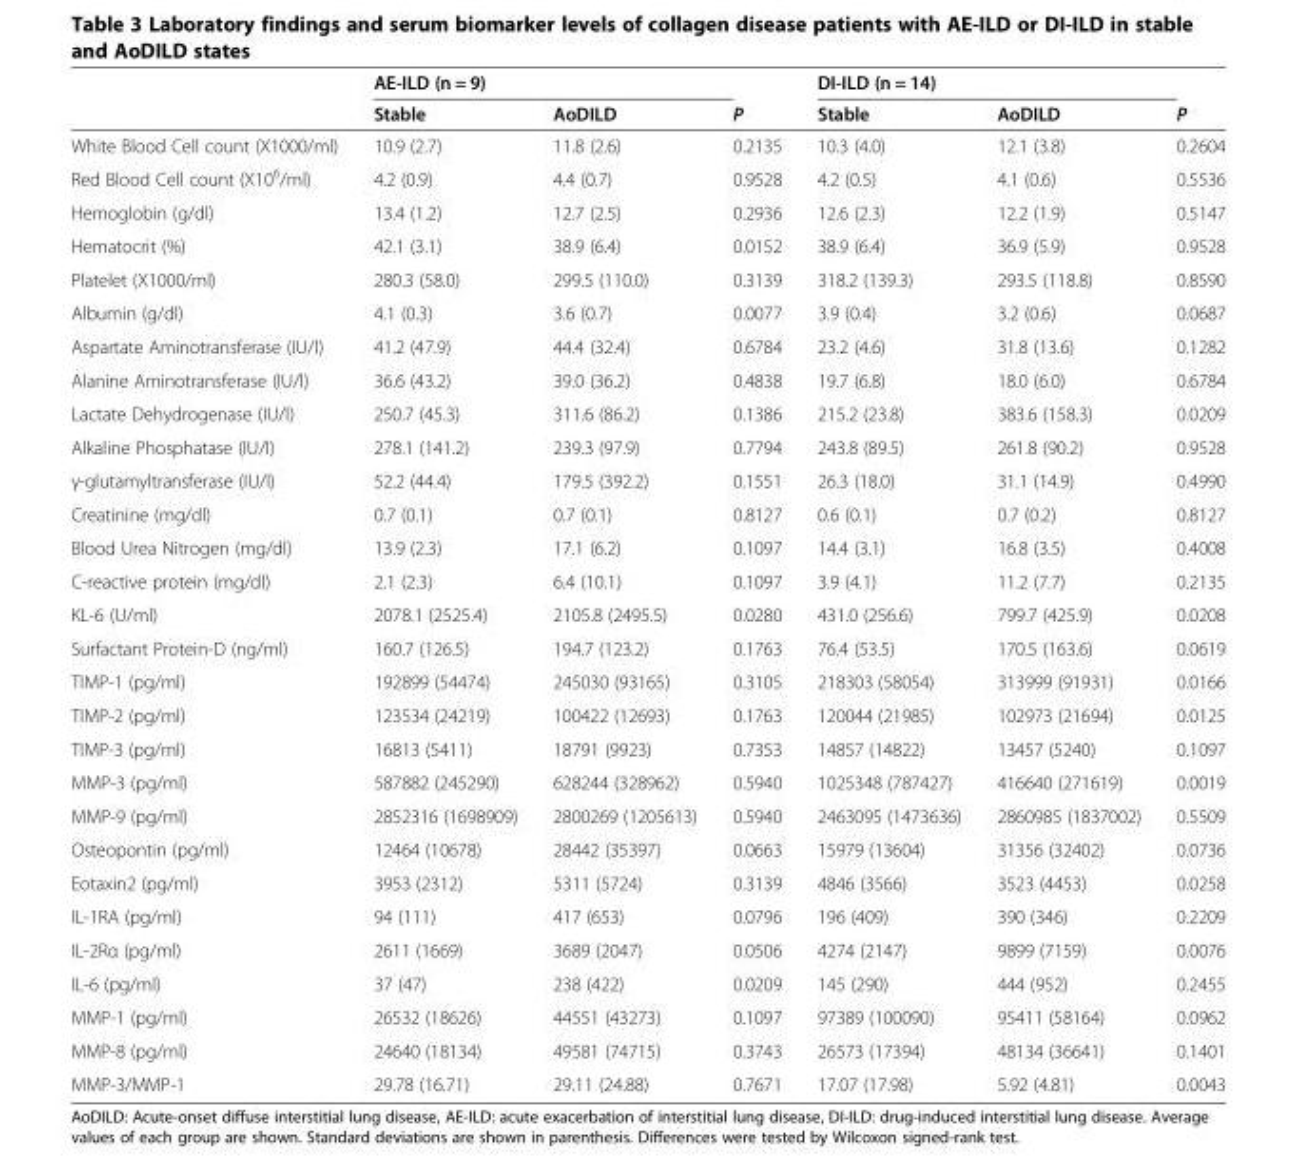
<table><thead><tr><td rowspan="2"></td><td rowspan="2">AE-ILD (n = 9) Stable</td><td rowspan="2">AoDILD</td><td rowspan="2">P</td><td rowspan="2">DI-ILD (n = 14) Stable</td><td rowspan="2">AoDILD</td><td rowspan="2">P</td></tr><tr></tr></thead><tbody><tr><td>White Blood Cell count (X1000/ml)</td><td>10.9 (2.7)</td><td>11.8 (2.6)</td><td>0.2135</td><td>10.3 (4.0)</td><td>12.1 (3.8)</td><td>0.2604</td></tr><tr><td>Red Blood Cell count (X10<sup>6</sup>/ml)</td><td>4.2 (0.9)</td><td>4.4 (0.7)</td><td>0.9528</td><td>4.2 (0.5)</td><td>4.1 (0.6)</td><td>0.5536</td></tr><tr><td>Hemoglobin (g/dl)</td><td>13.4 (1.2)</td><td>12.7 (2.5)</td><td>0.2936</td><td>12.6 (2.3)</td><td>12.2 (1.9)</td><td>0.5147</td></tr><tr><td>Hematocrit (%)</td><td>42.1 (3.1)</td><td>38.9 (6.4)</td><td>0.0152</td><td>38.9 (6.4)</td><td>36.9 (5.9)</td><td>0.9528</td></tr><tr><td>Platelet (X1000/ml)</td><td>280.3 (58.0)</td><td>299.5 (110.0)</td><td>0.3139</td><td>318.2 (139.3)</td><td>293.5 (118.8)</td><td>0.8590</td></tr><tr><td>Albumin (g/dl)</td><td>4.1 (0.3)</td><td>3.6 (0.7)</td><td>0.0077</td><td>3.9 (0.4)</td><td>3.2 (0.6)</td><td>0.0687</td></tr><tr><td>Aspartate Aminotransferase (IU/l)</td><td>41.2 (47.9)</td><td>44.4 (32.4)</td><td>0.6784</td><td>23.2 (4.6)</td><td>31.8 (13.6)</td><td>0.1282</td></tr><tr><td>Alanine Aminotransferase (IU/l)</td><td>36.6 (43.2)</td><td>39.0 (36.2)</td><td>0.4838</td><td>19.7 (6.8)</td><td>18.0 (6.0)</td><td>0.6784</td></tr><tr><td>Lactate Dehydrogenase (IU/l)</td><td>250.7 (45.3)</td><td>311.6 (86.2)</td><td>0.1386</td><td>215.2 (23.8)</td><td>383.6 (158.3)</td><td>0.0209</td></tr><tr><td>Alkaline Phosphatase (IU/l)</td><td>278.1 (141.2)</td><td>239.3 (97.9)</td><td>0.7794</td><td>243.8 (89.5)</td><td>261.8 (90.2)</td><td>0.9528</td></tr><tr><td>γ-glutamyltransferase (IU/l)</td><td>52.2 (44.4)</td><td>179.5 (392.2)</td><td>0.1551</td><td>26.3 (18.0)</td><td>31.1 (14.9)</td><td>0.4990</td></tr><tr><td>Creatinine (mg/dl)</td><td>0.7 (0.1)</td><td>0.7 (0.1)</td><td>0.8127</td><td>0.6 (0.1)</td><td>0.7 (0.2)</td><td>0.8127</td></tr><tr><td>Blood Urea Nitrogen (mg/dl)</td><td>13.9 (2.3)</td><td>17.1 (6.2)</td><td>0.1097</td><td>14.4 (3.1)</td><td>16.8 (3.5)</td><td>0.4008</td></tr><tr><td>C-reactive protein (mg/dl)</td><td>2.1 (2.3)</td><td>6.4 (10.1)</td><td>0.1097</td><td>3.9 (4.1)</td><td>11.2 (7.7)</td><td>0.2135</td></tr><tr><td>KL-6 (U/ml)</td><td>2078.1 (2525.4)</td><td>2105.8 (2495.5)</td><td>0.0280</td><td>431.0 (256.6)</td><td>799.7 (425.9)</td><td>0.0208</td></tr><tr><td>Surfactant Protein-D (ng/ml)</td><td>160.7 (126.5)</td><td>194.7 (123.2)</td><td>0.1763</td><td>76.4 (53.5)</td><td>170.5 (163.6)</td><td>0.0619</td></tr><tr><td>TIMP-1 (pg/ml)</td><td>192899 (54474)</td><td>245030 (93165)</td><td>0.3105</td><td>218303 (58054)</td><td>313999 (91931)</td><td>0.0166</td></tr><tr><td>TIMP-2 (pg/ml)</td><td>123534 (24219)</td><td>100422 (12693)</td><td>0.1763</td><td>120044 (21985)</td><td>102973 (21694)</td><td>0.0125</td></tr><tr><td>TIMP-3 (pg/ml)</td><td>16813 (5411)</td><td>18791 (9923)</td><td>0.7353</td><td>14857 (14822)</td><td>13457 (5240)</td><td>0.1097</td></tr><tr><td>MMP-3 (pg/ml)</td><td>587882 (245290)</td><td>628244 (328962)</td><td>0.5940</td><td>1025348 (787427)</td><td>416640 (271619)</td><td>0.0019</td></tr><tr><td>MMP-9 (pg/ml)</td><td>2852316 (1698909)</td><td>2800269 (1205613)</td><td>0.5940</td><td>2463095 (1473636)</td><td>2860985 (1837002)</td><td>0.5509</td></tr><tr><td>Osteopontin (pg/ml)</td><td>12464 (10678)</td><td>28442 (35397)</td><td>0.0663</td><td>15979 (13604)</td><td>31356 (32402)</td><td>0.0736</td></tr><tr><td>Eotaxin2 (pg/ml)</td><td>3953 (2312)</td><td>5311 (5724)</td><td>0.3139</td><td>4846 (3566)</td><td>3523 (4453)</td><td>0.0258</td></tr><tr><td>IL-1RA (pg/ml)</td><td>94 (111)</td><td>417 (653)</td><td>0.0796</td><td>196 (409)</td><td>390 (346)</td><td>0.2209</td></tr><tr><td>IL-2Rα (pg/ml)</td><td>2611 (1669)</td><td>3689 (2047)</td><td>0.0506</td><td>4274 (2147)</td><td>9899 (7159)</td><td>0.0076</td></tr><tr><td>IL-6 (pg/ml)</td><td>37 (47)</td><td>238 (422)</td><td>0.0209</td><td>145 (290)</td><td>444 (952)</td><td>0.2455</td></tr><tr><td>MMP-1 (pg/ml)</td><td>26532 (18626)</td><td>44551 (43273)</td><td>0.1097</td><td>97389 (100090)</td><td>95411 (58164)</td><td>0.0962</td></tr><tr><td>MMP-8 (pg/ml)</td><td>24640 (18134)</td><td>49581 (74715)</td><td>0.3743</td><td>26573 (17394)</td><td>48134 (36641)</td><td>0.1401</td></tr><tr><td>MMP-3/MMP-1</td><td>29.78 (16.71)</td><td>29.11 (24.88)</td><td>0.7671</td><td>17.07 (17.98)</td><td>5.92 (4.81)</td><td>0.0043</td></tr></tbody></table>